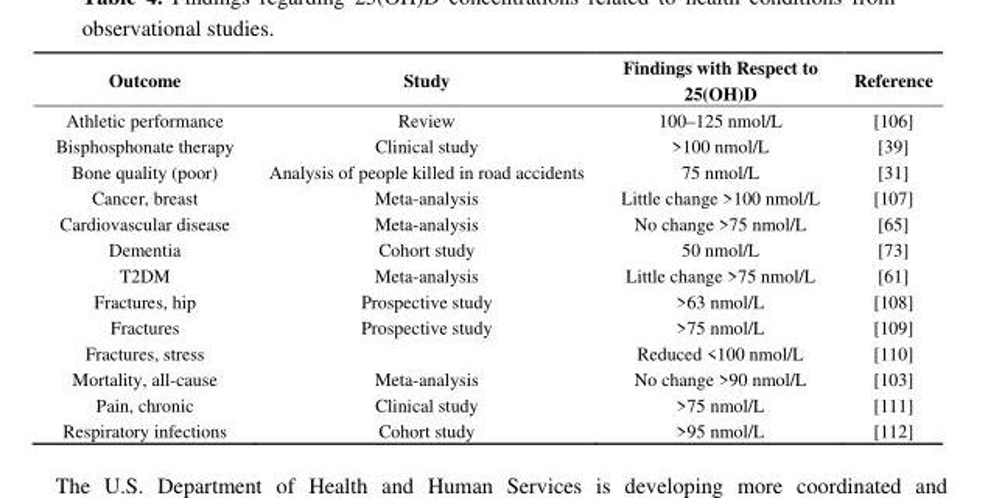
<table><thead><tr><td>Outcome</td><td>Study</td><td>Findings with Respect to 25(OH)D</td><td>Reference</td></tr></thead><tbody><tr><td>Athletic performance</td><td>Review</td><td>100–125 nmol/L</td><td>[106]</td></tr><tr><td>Bisphosphonate therapy</td><td>Clinical study</td><td>&gt;100 nmol/L</td><td>[39]</td></tr><tr><td>Bone quality (poor)</td><td>Analysis of people killed in road accidents</td><td>75 nmol/L</td><td>[31]</td></tr><tr><td>Cancer, breast</td><td>Meta-analysis</td><td>Little change &gt;100 nmol/L</td><td>[107]</td></tr><tr><td>Cardiovascular disease</td><td>Meta-analysis</td><td>No change &gt;75 nmol/L</td><td>[65]</td></tr><tr><td>Dementia</td><td>Cohort study</td><td>50 nmol/L</td><td>[73]</td></tr><tr><td>T2DM</td><td>Meta-analysis</td><td>Little change &gt;75 nmol/L</td><td>[61]</td></tr><tr><td>Fractures, hip</td><td>Prospective study</td><td>&gt;63 nmol/L</td><td>[108]</td></tr><tr><td>Fractures</td><td>Prospective study</td><td>&gt;75 nmol/L</td><td>[109]</td></tr><tr><td>Fractures, stress</td><td></td><td>Reduced &lt;100 nmol/L</td><td>[110]</td></tr><tr><td>Mortality, all-cause</td><td>Meta-analysis</td><td>No change &gt;90 nmol/L</td><td>[103]</td></tr><tr><td>Pain, chronic</td><td>Clinical study</td><td>&gt;75 nmol/L</td><td>[111]</td></tr><tr><td>Respiratory infections</td><td>Cohort study</td><td>&gt;95 nmol/L</td><td>[112]</td></tr></tbody></table>